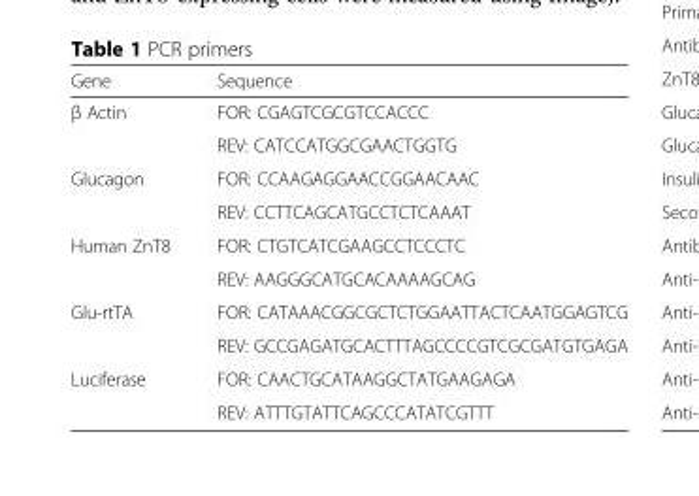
<table><thead><tr><td>Gene</td><td>Sequence</td></tr></thead><tbody><tr><td rowspan="2">β Actin</td><td>FOR: CGAGTCGCGTCCACCC</td></tr><tr><td>REV: CATCCATGGCGAACTGGTG</td></tr><tr><td rowspan="2">Glucagon</td><td>FOR: CCAAGAGGAACCGGAACAAC</td></tr><tr><td>REV: CCTTCAGCATGCCTCTCAAAT</td></tr><tr><td rowspan="2">Human ZnT8</td><td>FOR: CTGTCATCGAAGCCTCCCTC</td></tr><tr><td>REV: AAGGGCATGCACAAAAGCAG</td></tr><tr><td rowspan="2">Glu-rtTA</td><td>FOR: CATAAACGGCGCTCTGGAATTACTCAATGGAGTCG</td></tr><tr><td>REV: GCCGAGATGCACTTTAGCCCCGTCGCGATGTGAGA</td></tr><tr><td rowspan="2">Luciferase</td><td>FOR: CAACTGCATAAGGCTATGAAGAGA</td></tr><tr><td>REV: ATTTGTATTCAGCCCATATCGTTT</td></tr></tbody></table>